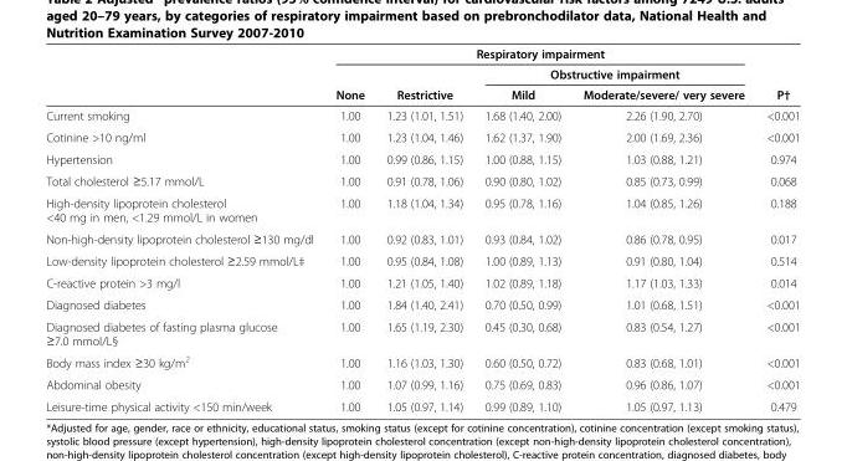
<table><thead><tr><td rowspan="3"></td><td colspan="4">Respiratory impairment</td><td rowspan="3">P†</td></tr><tr><td rowspan="2">None</td><td rowspan="2">Restrictive</td><td colspan="2">Obstructive impairment</td></tr><tr><td>Mild</td><td>Moderate/severe/ very severe</td></tr></thead><tbody><tr><td>Current smoking</td><td>1.00</td><td>1.23 (1.01, 1.51)</td><td>1.68 (1.40, 2.00)</td><td>2.26 (1.90, 2.70)</td><td>&lt;0.001</td></tr><tr><td>Cotinine &gt;10 ng/ml</td><td>1.00</td><td>1.23 (1.04, 1.46)</td><td>1.62 (1.37, 1.90)</td><td>2.00 (1.69, 2.36)</td><td>&lt;0.001</td></tr><tr><td>Hypertension</td><td>1.00</td><td>0.99 (0.86, 1.15)</td><td>1.00 (0.88, 1.15)</td><td>1.03 (0.88, 1.21)</td><td>0.974</td></tr><tr><td>Total cholesterol ≥5.17 mmol/L</td><td>1.00</td><td>0.91 (0.78, 1.06)</td><td>0.90 (0.80, 1.02)</td><td>0.85 (0.73, 0.99)</td><td>0.068</td></tr><tr><td>High-density lipoprotein cholesterol &lt;40 mg in men, &lt;1.29 mmol/L in women</td><td>1.00</td><td>1.18 (1.04, 1.34)</td><td>0.95 (0.78, 1.16)</td><td>1.04 (0.85, 1.26)</td><td>0.188</td></tr><tr><td>Non-high-density lipoprotein cholesterol ≥130 mg/dl</td><td>1.00</td><td>0.92 (0.83, 1.01)</td><td>0.93 (0.84, 1.02)</td><td>0.86 (0.78, 0.95)</td><td>0.017</td></tr><tr><td>Low-density lipoprotein cholesterol ≥2.59 mmol/L‡</td><td>1.00</td><td>0.95 (0.84, 1.08)</td><td>1.00 (0.89, 1.13)</td><td>0.91 (0.80, 1.04)</td><td>0.514</td></tr><tr><td>C-reactive protein &gt;3 mg/l</td><td>1.00</td><td>1.21 (1.05, 1.40)</td><td>1.02 (0.89, 1.18)</td><td>1.17 (1.03, 1.33)</td><td>0.014</td></tr><tr><td>Diagnosed diabetes</td><td>1.00</td><td>1.84 (1.40, 2.41)</td><td>0.70 (0.50, 0.99)</td><td>1.01 (0.68, 1.51)</td><td>&lt;0.001</td></tr><tr><td>Diagnosed diabetes of fasting plasma glucose ≥7.0 mmol/L§</td><td>1.00</td><td>1.65 (1.19, 2.30)</td><td>0.45 (0.30, 0.68)</td><td>0.83 (0.54, 1.27)</td><td>&lt;0.001</td></tr><tr><td>Body mass index ≥30 kg/m<sup>2</sup></td><td>1.00</td><td>1.16 (1.03, 1.30)</td><td>0.60 (0.50, 0.72)</td><td>0.83 (0.68, 1.01)</td><td>&lt;0.001</td></tr><tr><td>Abdominal obesity</td><td>1.00</td><td>1.07 (0.99, 1.16)</td><td>0.75 (0.69, 0.83)</td><td>0.96 (0.86, 1.07)</td><td>&lt;0.001</td></tr><tr><td>Leisure-time physical activity &lt;150 min/week</td><td>1.00</td><td>1.05 (0.97, 1.14)</td><td>0.99 (0.89, 1.10)</td><td>1.05 (0.97, 1.13)</td><td>0.479</td></tr></tbody></table>